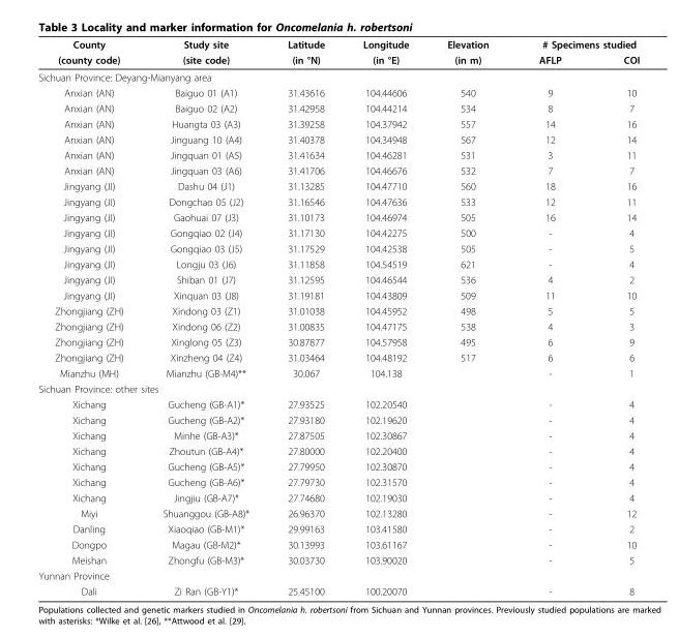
<table><thead><tr><td rowspan="2">County (county code)</td><td rowspan="2">Study site (site code)</td><td rowspan="2">Latitude (in °N)</td><td rowspan="2">Longitude (in °E)</td><td rowspan="2">Elevation (in m)</td><td colspan="2"># Specimens studied</td></tr><tr><td>AFLP</td><td>COI</td></tr></thead><tbody><tr><td colspan="7">Sichuan Province: Deyang-Mianyang area</td></tr><tr><td>Anxian (AN)</td><td>Baiguo 01 (A1)</td><td>31.43616</td><td>104.44606</td><td>540</td><td>9</td><td>10</td></tr><tr><td>Anxian (AN)</td><td>Baiguo 02 (A2)</td><td>31.42958</td><td>104.44214</td><td>534</td><td>8</td><td>7</td></tr><tr><td>Anxian (AN)</td><td>Huangta 03 (A3)</td><td>31.39258</td><td>104.37942</td><td>557</td><td>14</td><td>16</td></tr><tr><td>Anxian (AN)</td><td>Jinguang 10 (A4)</td><td>31.40378</td><td>104.34948</td><td>567</td><td>12</td><td>14</td></tr><tr><td>Anxian (AN)</td><td>Jingquan 01 (A5)</td><td>31.41634</td><td>104.46281</td><td>531</td><td>3</td><td>11</td></tr><tr><td>Anxian (AN)</td><td>Jingquan 03 (A6)</td><td>31.41706</td><td>104.46676</td><td>532</td><td>7</td><td>7</td></tr><tr><td>Jingyang (JI)</td><td>Dashu 04 (J1)</td><td>31.13285</td><td>104.47710</td><td>560</td><td>18</td><td>16</td></tr><tr><td>Jingyang (JI)</td><td>Dongchao 05 (J2)</td><td>31.16546</td><td>104.47636</td><td>533</td><td>12</td><td>11</td></tr><tr><td>Jingyang (JI)</td><td>Gaohuai 07 (J3)</td><td>31.10173</td><td>104.46974</td><td>505</td><td>16</td><td>14</td></tr><tr><td>Jingyang (JI)</td><td>Gongqiao 02 (J4)</td><td>31.17130</td><td>104.42275</td><td>500</td><td>-</td><td>4</td></tr><tr><td>Jingyang (JI)</td><td>Gongqiao 03 (J5)</td><td>31.17529</td><td>104.42538</td><td>505</td><td>-</td><td>5</td></tr><tr><td>Jingyang (JI)</td><td>Longju 03 (J6)</td><td>31.11858</td><td>104.54519</td><td>621</td><td>-</td><td>4</td></tr><tr><td>Jingyang (JI)</td><td>Shiban 01 (J7)</td><td>31.12595</td><td>104.46544</td><td>536</td><td>4</td><td>2</td></tr><tr><td>Jingyang (JI)</td><td>Xinquan 03 (J8)</td><td>31.19181</td><td>104.43809</td><td>509</td><td>11</td><td>10</td></tr><tr><td>Zhongjiang (ZH)</td><td>Xindong 03 (Z1)</td><td>31.01038</td><td>104.45952</td><td>498</td><td>5</td><td>5</td></tr><tr><td>Zhongjiang (ZH)</td><td>Xindong 06 (Z2)</td><td>31.00835</td><td>104.47175</td><td>538</td><td>4</td><td>3</td></tr><tr><td>Zhongjiang (ZH)</td><td>Xinglong 05 (Z3)</td><td>30.87877</td><td>104.57958</td><td>495</td><td>6</td><td>9</td></tr><tr><td>Zhongjiang (ZH)</td><td>Xinzheng 04 (Z4)</td><td>31.03464</td><td>104.48192</td><td>517</td><td>6</td><td>6</td></tr><tr><td>Mianzhu (MH)</td><td>Mianzhu (GB-M4)**</td><td>30.067</td><td>104.138</td><td></td><td>-</td><td>1</td></tr><tr><td colspan="7">Sichuan Province: other sites</td></tr><tr><td>Xichang</td><td>Gucheng (GB-A1)*</td><td>27.93525</td><td>102.20540</td><td></td><td>-</td><td>4</td></tr><tr><td>Xichang</td><td>Gucheng (GB-A2)*</td><td>27.93180</td><td>102.19620</td><td></td><td>-</td><td>4</td></tr><tr><td>Xichang</td><td>Minhe (GB-A3)*</td><td>27.87505</td><td>102.30867</td><td></td><td>-</td><td>4</td></tr><tr><td>Xichang</td><td>Zhoutun (GB-A4)*</td><td>27.80000</td><td>102.20400</td><td></td><td>-</td><td>4</td></tr><tr><td>Xichang</td><td>Gucheng (GB-A5)*</td><td>27.79950</td><td>102.30870</td><td></td><td>-</td><td>4</td></tr><tr><td>Xichang</td><td>Gucheng (GB-A6)*</td><td>27.79730</td><td>102.31570</td><td></td><td>-</td><td>4</td></tr><tr><td>Xichang</td><td>Jingjiu (GB-A7)*</td><td>27.74680</td><td>102.19030</td><td></td><td>-</td><td>4</td></tr><tr><td>Miyi</td><td>Shuanggou (GB-A8)*</td><td>26.96370</td><td>102.13280</td><td></td><td>-</td><td>12</td></tr><tr><td>Danling</td><td>Xiaoqiao (GB-M1)*</td><td>29.99163</td><td>103.41580</td><td></td><td>-</td><td>2</td></tr><tr><td>Dongpo</td><td>Magau (GB-M2)*</td><td>30.13993</td><td>103.61167</td><td></td><td>-</td><td>10</td></tr><tr><td>Meishan</td><td>Zhongfu (GB-M3)*</td><td>30.03730</td><td>103.90020</td><td></td><td>-</td><td>5</td></tr><tr><td colspan="7">Yunnan Province</td></tr><tr><td>Dali</td><td>Zi Ran (GB-Y1)*</td><td>25.45100</td><td>100.20070</td><td></td><td>-</td><td>8</td></tr></tbody></table>